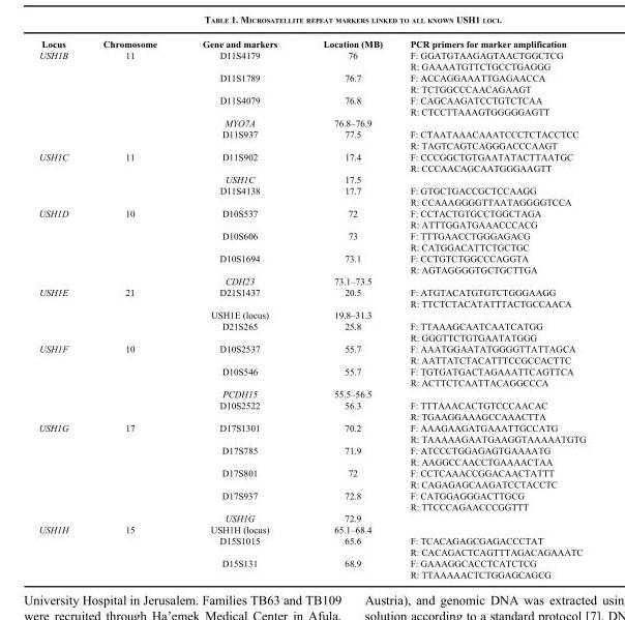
<table><thead><tr><td>Locus</td><td>Chromosome</td><td>Gene and markers</td><td>Location (MB)</td><td>PCR primers for marker amplification</td></tr></thead><tbody><tr><td rowspan="9">USH1B</td><td>11</td><td>D11S4179</td><td>76</td><td>F: GGATGTAAGAGTAACTGGCTCG</td></tr><tr><td></td><td></td><td></td><td>R: GAAAATGTTCTGCCTGAGGG</td></tr><tr><td></td><td>D11S1789</td><td>76.7</td><td>F: ACCAGGAAATTGAGAACCA</td></tr><tr><td></td><td></td><td></td><td>R: TCTGGCCCAACAGAAGT</td></tr><tr><td></td><td>D11S4079</td><td>76.8</td><td>F: CAGCAAGATCCTGTCTCAA</td></tr><tr><td></td><td></td><td></td><td>R: CTCCTTAAAGTGGGGGAGTT</td></tr><tr><td></td><td>MYO7A</td><td>76.8–76.9</td><td></td></tr><tr><td></td><td>D11S937</td><td>77.5</td><td>F: CTAATAAACAAATCCCTCTACCTCC</td></tr><tr><td></td><td></td><td></td><td>R: TAGTCAGTCAGGGACCCAAGT</td></tr><tr><td rowspan="5">USH1C</td><td>11</td><td>D11S902</td><td>17.4</td><td>F: CCCGGCTGTGAATATACTTAATGC</td></tr><tr><td></td><td></td><td></td><td>R: CCCAACAGCAATGGGAAGTT</td></tr><tr><td></td><td>USH1C</td><td>17.5</td><td></td></tr><tr><td></td><td>D11S4138</td><td>17.7</td><td>F: GTGCTGACCGCTCCAAGG</td></tr><tr><td></td><td></td><td></td><td>R: CCAAAGGGGTTAATAGGGGTCCA</td></tr><tr><td rowspan="7">USH1D</td><td>10</td><td>D10S537</td><td>72</td><td>F: CCTACTGTGCCTGGCTAGA</td></tr><tr><td></td><td></td><td></td><td>R: ATTTGGATGAAACCCACG</td></tr><tr><td></td><td>D10S606</td><td>73</td><td>F: TTTGAACCTGGGAGACG</td></tr><tr><td></td><td></td><td></td><td>R: CATGGACATTCTGCTGC</td></tr><tr><td></td><td>D10S1694</td><td>73.1</td><td>F: CCTGTCTGGCCCAGGTA</td></tr><tr><td></td><td></td><td></td><td>R: AGTAGGGGTGCTGCTTGA</td></tr><tr><td></td><td>CDH23</td><td>73.1–73.5</td><td></td></tr><tr><td rowspan="5">USH1E</td><td>21</td><td>D21S1437</td><td>20.5</td><td>F: ATGTACATGTGTCTGGGAAGG</td></tr><tr><td></td><td></td><td></td><td>R: TTCTCTACATATTTACTGCCAACA</td></tr><tr><td></td><td>USH1E (locus)</td><td>19.8–31.3</td><td></td></tr><tr><td></td><td>D21S265</td><td>25.8</td><td>F: TTAAAGCAATCAATCATGG</td></tr><tr><td></td><td></td><td></td><td>R: GGGTTCTGTGAATATGGG</td></tr><tr><td rowspan="7">USH1F</td><td>10</td><td>D10S2537</td><td>55.7</td><td>F: AAATGGAATATGGGGTTATTAGCA</td></tr><tr><td></td><td></td><td></td><td>R: AATTATCTACATTTCCGCCACTTC</td></tr><tr><td></td><td>D10S546</td><td>55.7</td><td>F: TGTGATGACTAGAAATTCAGTTCA</td></tr><tr><td></td><td></td><td></td><td>R: ACTTCTCAATTACAGGCCCA</td></tr><tr><td></td><td>PCDH15</td><td>55.5–56.5</td><td></td></tr><tr><td></td><td>D10S2522</td><td>56.3</td><td>F: TTTAAACACTGTCCCAACAC</td></tr><tr><td></td><td></td><td></td><td>R: TGAAGGAAAGCCAAACTTA</td></tr><tr><td rowspan="9">USH1G</td><td>17</td><td>D17S1301</td><td>70.2</td><td>F: AAAGAAGATGAAATTGCCATG</td></tr><tr><td></td><td></td><td></td><td>R: TAAAAAGAATGAAGGTAAAAATGTG</td></tr><tr><td></td><td>D17S785</td><td>71.9</td><td>F: ATCCCTGGAGAGTGAAAATG</td></tr><tr><td></td><td></td><td></td><td>R: AAGGCCAACCTGAAAACTAA</td></tr><tr><td></td><td>D17S801</td><td>72</td><td>F: CCTCAAACCGGACAACTATTT</td></tr><tr><td></td><td></td><td></td><td>R: CAGAGAGCAAGATCCTACCTC</td></tr><tr><td></td><td>D17S937</td><td>72.8</td><td>F: CATGGAGGGACTTGCG</td></tr><tr><td></td><td></td><td></td><td>R: TTCCCAGAACCCGGTTT</td></tr><tr><td></td><td>USH1G</td><td>72.9</td><td></td></tr><tr><td rowspan="5">USH1H</td><td>15</td><td>USH1H (locus)</td><td>65.1–68.4</td><td></td></tr><tr><td></td><td>D15S1015</td><td>65.6</td><td>F: TCACAGAGCGAGACCCTAT</td></tr><tr><td></td><td></td><td></td><td>R: CACAGACTCAGTTTAGACAGAAATC</td></tr><tr><td></td><td>D15S131</td><td>68.9</td><td>F: GAAAGGCACCTCATCTCG</td></tr><tr><td></td><td></td><td></td><td>R: TTAAAAACTCTGGAGCAGCG</td></tr></tbody></table>